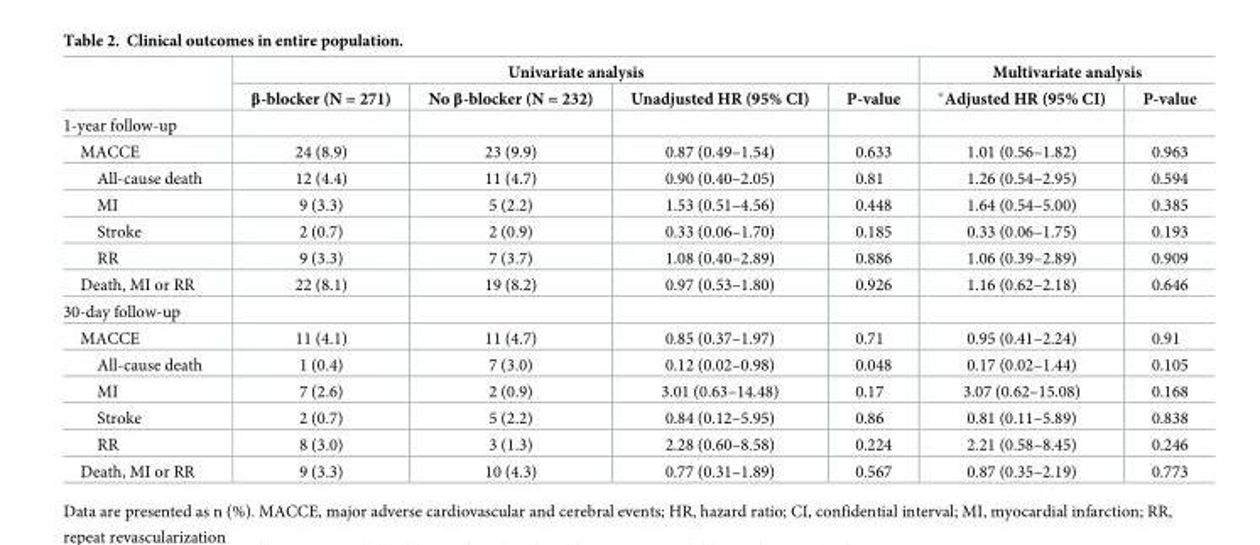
<table><thead><tr><td rowspan="2"></td><td colspan="4">Univariate analysis</td><td colspan="2">Multivariate analysis</td></tr><tr><td>β-blocker (N = 271)</td><td>No β-blocker (N = 232)</td><td>Unadjusted HR (95% CI)</td><td>P-value</td><td>*Adjusted HR (95% CI)</td><td>P-value</td></tr></thead><tbody><tr><td colspan="7">1-year follow-up</td></tr><tr><td>MACCE</td><td>24 (8.9)</td><td>23 (9.9)</td><td>0.87 (0.49–1.54)</td><td>0.633</td><td>1.01 (0.56–1.82)</td><td>0.963</td></tr><tr><td>All-cause death</td><td>12 (4.4)</td><td>11 (4.7)</td><td>0.90 (0.40–2.05)</td><td>0.81</td><td>1.26 (0.54–2.95)</td><td>0.594</td></tr><tr><td>MI</td><td>9 (3.3)</td><td>5 (2.2)</td><td>1.53 (0.51–4.56)</td><td>0.448</td><td>1.64 (0.54–5.00)</td><td>0.385</td></tr><tr><td>Stroke</td><td>2 (0.7)</td><td>2 (0.9)</td><td>0.33 (0.06–1.70)</td><td>0.185</td><td>0.33 (0.06–1.75)</td><td>0.193</td></tr><tr><td>RR</td><td>9 (3.3)</td><td>7 (3.7)</td><td>1.08 (0.40–2.89)</td><td>0.886</td><td>1.06 (0.39–2.89)</td><td>0.909</td></tr><tr><td>Death, MI or RR</td><td>22 (8.1)</td><td>19 (8.2)</td><td>0.97 (0.53–1.80)</td><td>0.926</td><td>1.16 (0.62–2.18)</td><td>0.646</td></tr><tr><td colspan="7">30-day follow-up</td></tr><tr><td>MACCE</td><td>11 (4.1)</td><td>11 (4.7)</td><td>0.85 (0.37–1.97)</td><td>0.71</td><td>0.95 (0.41–2.24)</td><td>0.91</td></tr><tr><td>All-cause death</td><td>1 (0.4)</td><td>7 (3.0)</td><td>0.12 (0.02–0.98)</td><td>0.048</td><td>0.17 (0.02–1.44)</td><td>0.105</td></tr><tr><td>MI</td><td>7 (2.6)</td><td>2 (0.9)</td><td>3.01 (0.63–14.48)</td><td>0.17</td><td>3.07 (0.62–15.08)</td><td>0.168</td></tr><tr><td>Stroke</td><td>2 (0.7)</td><td>5 (2.2)</td><td>0.84 (0.12–5.95)</td><td>0.86</td><td>0.81 (0.11–5.89)</td><td>0.838</td></tr><tr><td>RR</td><td>8 (3.0)</td><td>3 (1.3)</td><td>2.28 (0.60–8.58)</td><td>0.224</td><td>2.21 (0.58–8.45)</td><td>0.246</td></tr><tr><td>Death, MI or RR</td><td>9 (3.3)</td><td>10 (4.3)</td><td>0.77 (0.31–1.89)</td><td>0.567</td><td>0.87 (0.35–2.19)</td><td>0.773</td></tr></tbody></table>